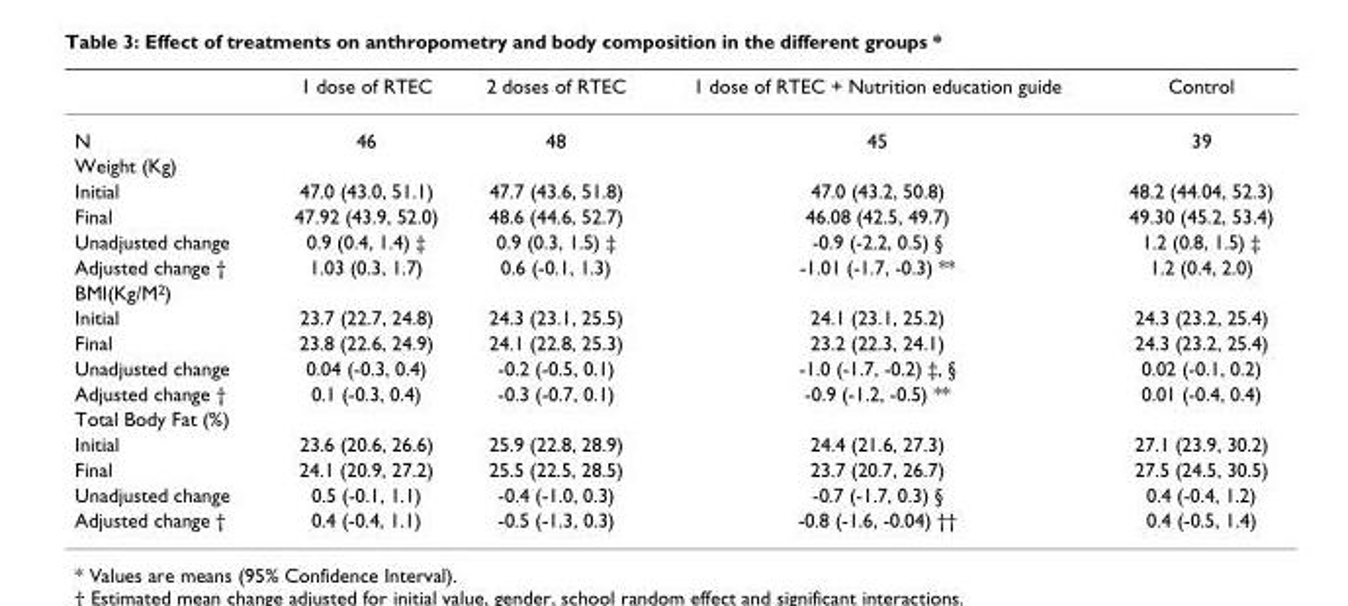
<table><thead><tr><td></td><td>1 dose of RTEC</td><td>2 doses of RTEC</td><td>1 dose of RTEC + Nutrition education guide</td><td>Control</td></tr></thead><tbody><tr><td>N</td><td>46</td><td>48</td><td>45</td><td>39</td></tr><tr><td colspan="5">Weight (Kg)</td></tr><tr><td>Initial</td><td>47.0 (43.0, 51.1)</td><td>47.7 (43.6, 51.8)</td><td>47.0 (43.2, 50.8)</td><td>48.2 (44.04, 52.3)</td></tr><tr><td>Final</td><td>47.92 (43.9, 52.0)</td><td>48.6 (44.6, 52.7)</td><td>46.08 (42.5, 49.7)</td><td>49.30 (45.2, 53.4)</td></tr><tr><td>Unadjusted change</td><td>0.9 (0.4, 1.4) ‡</td><td>0.9 (0.3, 1.5) ‡</td><td>-0.9 (-2.2, 0.5) §</td><td>1.2 (0.8, 1.5) ‡</td></tr><tr><td>Adjusted change †</td><td>1.03 (0.3, 1.7)</td><td>0.6 (-0.1, 1.3)</td><td>-1.01 (-1.7, -0.3) **</td><td>1.2 (0.4, 2.0)</td></tr><tr><td colspan="5">BMI(Kg/M<sup>2</sup>)</td></tr><tr><td>Initial</td><td>23.7 (22.7, 24.8)</td><td>24.3 (23.1, 25.5)</td><td>24.1 (23.1, 25.2)</td><td>24.3 (23.2, 25.4)</td></tr><tr><td>Final</td><td>23.8 (22.6, 24.9)</td><td>24.1 (22.8, 25.3)</td><td>23.2 (22.3, 24.1)</td><td>24.3 (23.2, 25.4)</td></tr><tr><td>Unadjusted change</td><td>0.04 (-0.3, 0.4)</td><td>-0.2 (-0.5, 0.1)</td><td>-1.0 (-1.7, -0.2) ‡, §</td><td>0.02 (-0.1, 0.2)</td></tr><tr><td>Adjusted change †</td><td>0.1 (-0.3, 0.4)</td><td>-0.3 (-0.7, 0.1)</td><td>-0.9 (-1.2, -0.5) **</td><td>0.01 (-0.4, 0.4)</td></tr><tr><td colspan="5">Total Body Fat (%)</td></tr><tr><td>Initial</td><td>23.6 (20.6, 26.6)</td><td>25.9 (22.8, 28.9)</td><td>24.4 (21.6, 27.3)</td><td>27.1 (23.9, 30.2)</td></tr><tr><td>Final</td><td>24.1 (20.9, 27.2)</td><td>25.5 (22.5, 28.5)</td><td>23.7 (20.7, 26.7)</td><td>27.5 (24.5, 30.5)</td></tr><tr><td>Unadjusted change</td><td>0.5 (-0.1, 1.1)</td><td>-0.4 (-1.0, 0.3)</td><td>-0.7 (-1.7, 0.3) §</td><td>0.4 (-0.4, 1.2)</td></tr><tr><td>Adjusted change †</td><td>0.4 (-0.4, 1.1)</td><td>-0.5 (-1.3, 0.3)</td><td>-0.8 (-1.6, -0.04) ††</td><td>0.4 (-0.5, 1.4)</td></tr></tbody></table>